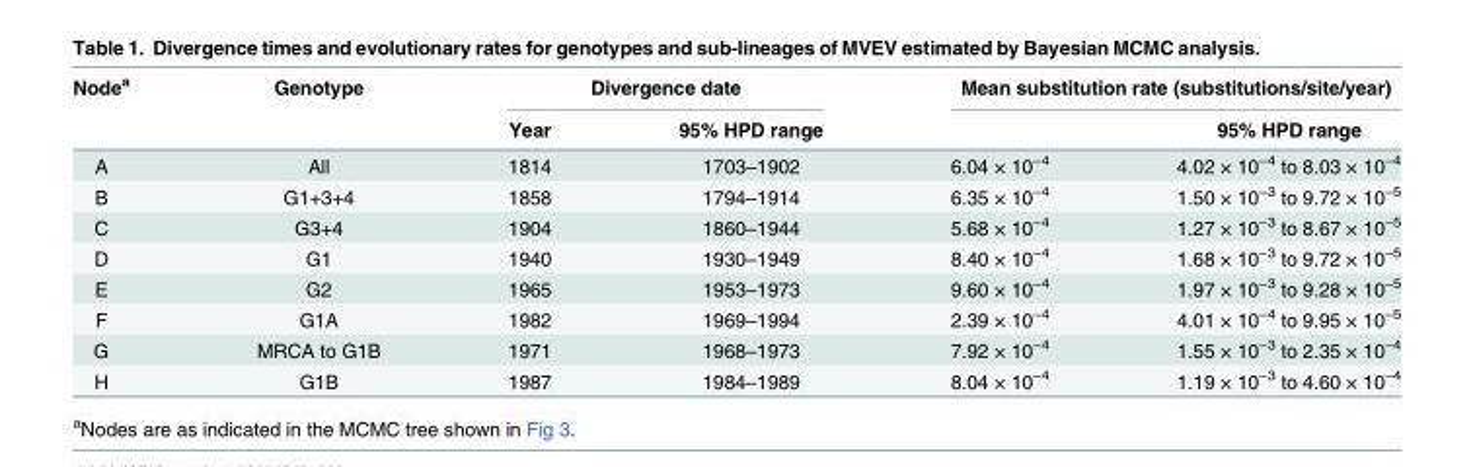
<table><thead><tr><td rowspan="2">Node<sup>a</sup></td><td rowspan="2">Genotype</td><td colspan="2">Divergence date</td><td colspan="2">Mean substitution rate (substitutions/site/year)</td></tr><tr><td>Year</td><td>95% HPD range</td><td></td><td>95% HPD range</td></tr></thead><tbody><tr><td>A</td><td>All</td><td>1814</td><td>1703–1902</td><td>6.04 × 10<sup>−4</sup></td><td>4.02 × 10<sup>−4</sup> to 8.03 × 10<sup>−4</sup></td></tr><tr><td>B</td><td>G1+3+4</td><td>1858</td><td>1794–1914</td><td>6.35 × 10<sup>−4</sup></td><td>1.50 × 10<sup>−3</sup> to 9.72 × 10<sup>−5</sup></td></tr><tr><td>C</td><td>G3+4</td><td>1904</td><td>1860–1944</td><td>5.68 × 10<sup>−4</sup></td><td>1.27 × 10<sup>−3</sup> to 8.67 × 10<sup>−5</sup></td></tr><tr><td>D</td><td>G1</td><td>1940</td><td>1930–1949</td><td>8.40 × 10<sup>−4</sup></td><td>1.68 × 10<sup>−3</sup> to 9.72 × 10<sup>−5</sup></td></tr><tr><td>E</td><td>G2</td><td>1965</td><td>1953–1973</td><td>9.60 × 10<sup>−4</sup></td><td>1.97 × 10<sup>−3</sup> to 9.28 × 10<sup>−5</sup></td></tr><tr><td>F</td><td>G1A</td><td>1982</td><td>1969–1994</td><td>2.39 × 10<sup>−4</sup></td><td>4.01 × 10<sup>−4</sup> to 9.95 × 10<sup>−5</sup></td></tr><tr><td>G</td><td>MRCA to G1B</td><td>1971</td><td>1968–1973</td><td>7.92 × 10<sup>−4</sup></td><td>1.55 × 10<sup>−3</sup> to 2.35 × 10<sup>−4</sup></td></tr><tr><td>H</td><td>G1B</td><td>1987</td><td>1984–1989</td><td>8.04 × 10<sup>−4</sup></td><td>1.19 × 10<sup>−3</sup> to 4.60 × 10<sup>−4</sup></td></tr></tbody></table>